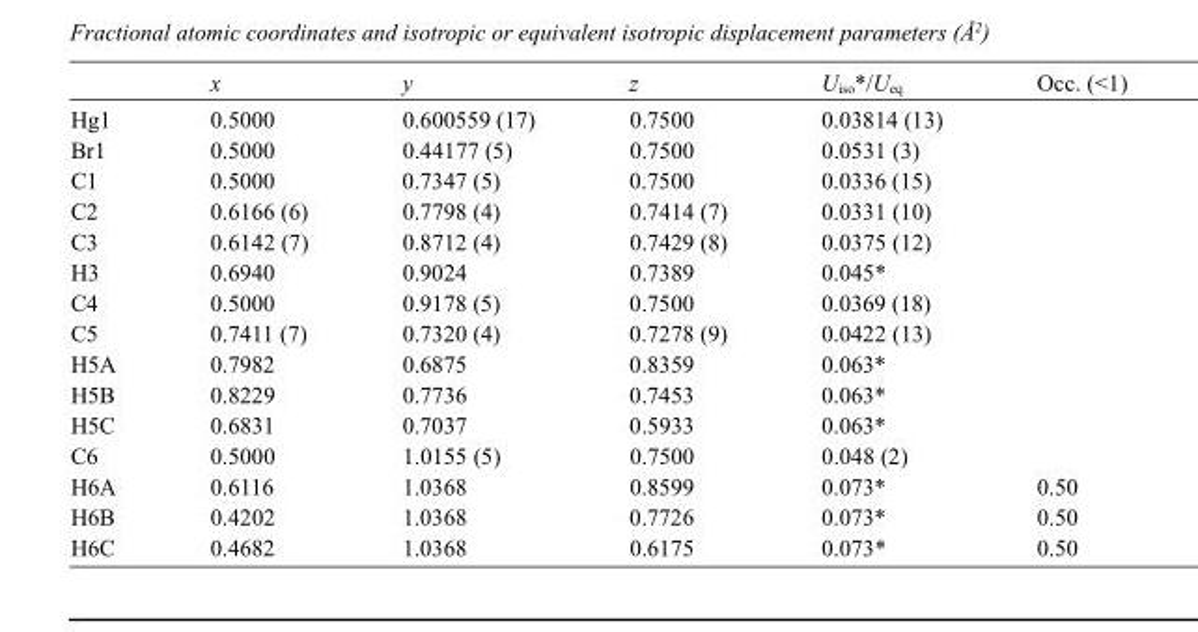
<table><thead><tr><td></td><td>x</td><td>y</td><td>z</td><td>U<sub>iso</sub>*/U<sub>eq</sub></td><td>Occ. (&lt;1)</td></tr></thead><tbody><tr><td>Hg1</td><td>0.5000</td><td>0.600559 (17)</td><td>0.7500</td><td>0.03814 (13)</td><td></td></tr><tr><td>Br1</td><td>0.5000</td><td>0.44177 (5)</td><td>0.7500</td><td>0.0531 (3)</td><td></td></tr><tr><td>C1</td><td>0.5000</td><td>0.7347 (5)</td><td>0.7500</td><td>0.0336 (15)</td><td></td></tr><tr><td>C2</td><td>0.6166 (6)</td><td>0.7798 (4)</td><td>0.7414 (7)</td><td>0.0331 (10)</td><td></td></tr><tr><td>C3</td><td>0.6142 (7)</td><td>0.8712 (4)</td><td>0.7429 (8)</td><td>0.0375 (12)</td><td></td></tr><tr><td>H3</td><td>0.6940</td><td>0.9024</td><td>0.7389</td><td>0.045*</td><td></td></tr><tr><td>C4</td><td>0.5000</td><td>0.9178 (5)</td><td>0.7500</td><td>0.0369 (18)</td><td></td></tr><tr><td>C5</td><td>0.7411 (7)</td><td>0.7320 (4)</td><td>0.7278 (9)</td><td>0.0422 (13)</td><td></td></tr><tr><td>H5A</td><td>0.7982</td><td>0.6875</td><td>0.8359</td><td>0.063*</td><td></td></tr><tr><td>H5B</td><td>0.8229</td><td>0.7736</td><td>0.7453</td><td>0.063*</td><td></td></tr><tr><td>H5C</td><td>0.6831</td><td>0.7037</td><td>0.5933</td><td>0.063*</td><td></td></tr><tr><td>C6</td><td>0.5000</td><td>1.0155 (5)</td><td>0.7500</td><td>0.048 (2)</td><td></td></tr><tr><td>H6A</td><td>0.6116</td><td>1.0368</td><td>0.8599</td><td>0.073*</td><td>0.50</td></tr><tr><td>H6B</td><td>0.4202</td><td>1.0368</td><td>0.7726</td><td>0.073*</td><td>0.50</td></tr><tr><td>H6C</td><td>0.4682</td><td>1.0368</td><td>0.6175</td><td>0.073*</td><td>0.50</td></tr></tbody></table>